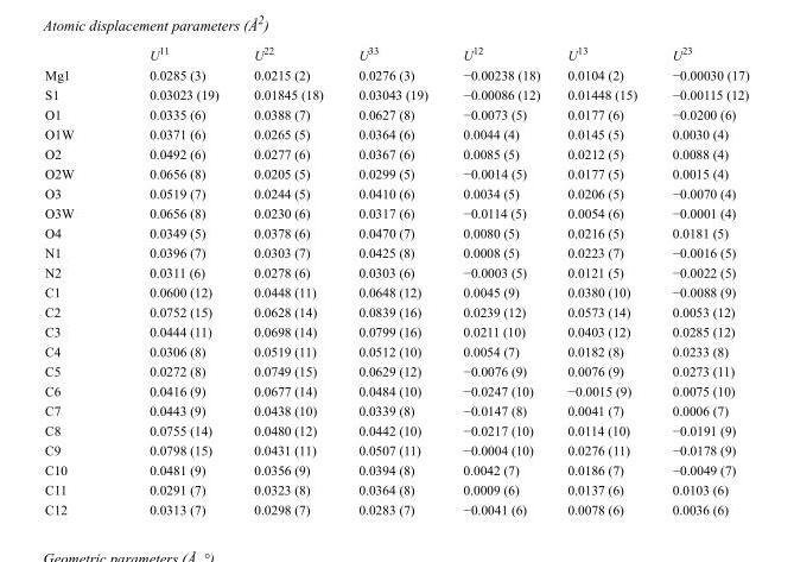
<table><thead><tr><td></td><td>U<sup>11</sup></td><td>U<sup>22</sup></td><td>U<sup>33</sup></td><td>U<sup>12</sup></td><td>U<sup>13</sup></td><td>U<sup>23</sup></td></tr></thead><tbody><tr><td>Mg1</td><td>0.0285 (3)</td><td>0.0215 (2)</td><td>0.0276 (3)</td><td>−0.00238 (18)</td><td>0.0104 (2)</td><td>−0.00030 (17)</td></tr><tr><td>S1</td><td>0.03023 (19)</td><td>0.01845 (18)</td><td>0.03043 (19)</td><td>−0.00086 (12)</td><td>0.01448 (15)</td><td>−0.00115 (12)</td></tr><tr><td>O1</td><td>0.0335 (6)</td><td>0.0388 (7)</td><td>0.0627 (8)</td><td>−0.0073 (5)</td><td>0.0177 (6)</td><td>−0.0200 (6)</td></tr><tr><td>O1W</td><td>0.0371 (6)</td><td>0.0265 (5)</td><td>0.0364 (6)</td><td>0.0044 (4)</td><td>0.0145 (5)</td><td>0.0030 (4)</td></tr><tr><td>O2</td><td>0.0492 (6)</td><td>0.0277 (6)</td><td>0.0367 (6)</td><td>0.0085 (5)</td><td>0.0212 (5)</td><td>0.0088 (4)</td></tr><tr><td>O2W</td><td>0.0656 (8)</td><td>0.0205 (5)</td><td>0.0299 (5)</td><td>−0.0014 (5)</td><td>0.0177 (5)</td><td>0.0015 (4)</td></tr><tr><td>O3</td><td>0.0519 (7)</td><td>0.0244 (5)</td><td>0.0410 (6)</td><td>0.0034 (5)</td><td>0.0206 (5)</td><td>−0.0070 (4)</td></tr><tr><td>O3W</td><td>0.0656 (8)</td><td>0.0230 (6)</td><td>0.0317 (6)</td><td>−0.0114 (5)</td><td>0.0054 (6)</td><td>−0.0001 (4)</td></tr><tr><td>O4</td><td>0.0349 (5)</td><td>0.0378 (6)</td><td>0.0470 (7)</td><td>0.0080 (5)</td><td>0.0216 (5)</td><td>0.0181 (5)</td></tr><tr><td>N1</td><td>0.0396 (7)</td><td>0.0303 (7)</td><td>0.0425 (8)</td><td>0.0008 (5)</td><td>0.0223 (7)</td><td>−0.0016 (5)</td></tr><tr><td>N2</td><td>0.0311 (6)</td><td>0.0278 (6)</td><td>0.0303 (6)</td><td>−0.0003 (5)</td><td>0.0121 (5)</td><td>−0.0022 (5)</td></tr><tr><td>C1</td><td>0.0600 (12)</td><td>0.0448 (11)</td><td>0.0648 (12)</td><td>0.0045 (9)</td><td>0.0380 (10)</td><td>−0.0088 (9)</td></tr><tr><td>C2</td><td>0.0752 (15)</td><td>0.0628 (14)</td><td>0.0839 (16)</td><td>0.0239 (12)</td><td>0.0573 (14)</td><td>0.0053 (12)</td></tr><tr><td>C3</td><td>0.0444 (11)</td><td>0.0698 (14)</td><td>0.0799 (16)</td><td>0.0211 (10)</td><td>0.0403 (12)</td><td>0.0285 (12)</td></tr><tr><td>C4</td><td>0.0306 (8)</td><td>0.0519 (11)</td><td>0.0512 (10)</td><td>0.0054 (7)</td><td>0.0182 (8)</td><td>0.0233 (8)</td></tr><tr><td>C5</td><td>0.0272 (8)</td><td>0.0749 (15)</td><td>0.0629 (12)</td><td>−0.0076 (9)</td><td>0.0076 (9)</td><td>0.0273 (11)</td></tr><tr><td>C6</td><td>0.0416 (9)</td><td>0.0677 (14)</td><td>0.0484 (10)</td><td>−0.0247 (10)</td><td>−0.0015 (9)</td><td>0.0075 (10)</td></tr><tr><td>C7</td><td>0.0443 (9)</td><td>0.0438 (10)</td><td>0.0339 (8)</td><td>−0.0147 (8)</td><td>0.0041 (7)</td><td>0.0006 (7)</td></tr><tr><td>C8</td><td>0.0755 (14)</td><td>0.0480 (12)</td><td>0.0442 (10)</td><td>−0.0217 (10)</td><td>0.0114 (10)</td><td>−0.0191 (9)</td></tr><tr><td>C9</td><td>0.0798 (15)</td><td>0.0431 (11)</td><td>0.0507 (11)</td><td>−0.0004 (10)</td><td>0.0276 (11)</td><td>−0.0178 (9)</td></tr><tr><td>C10</td><td>0.0481 (9)</td><td>0.0356 (9)</td><td>0.0394 (8)</td><td>0.0042 (7)</td><td>0.0186 (7)</td><td>−0.0049 (7)</td></tr><tr><td>C11</td><td>0.0291 (7)</td><td>0.0323 (8)</td><td>0.0364 (8)</td><td>0.0009 (6)</td><td>0.0137 (6)</td><td>0.0103 (6)</td></tr><tr><td>C12</td><td>0.0313 (7)</td><td>0.0298 (7)</td><td>0.0283 (7)</td><td>−0.0041 (6)</td><td>0.0078 (6)</td><td>0.0036 (6)</td></tr></tbody></table>